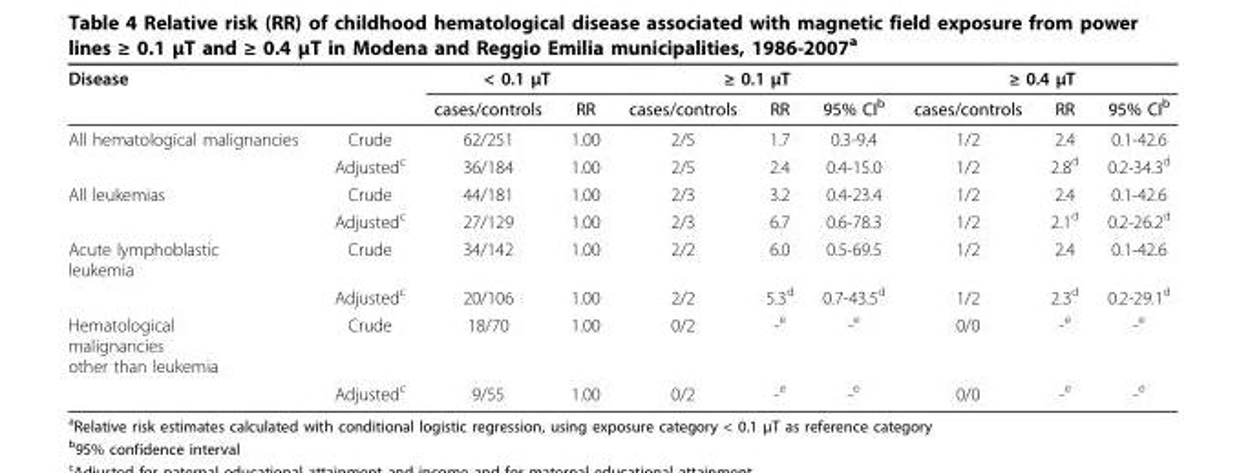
<table><thead><tr><td rowspan="2">Disease</td><td rowspan="2"></td><td colspan="2">&lt; 0.1 μT</td><td colspan="3">≥ 0.1 μT</td><td colspan="3">≥ 0.4 μT</td></tr><tr><td>cases/controls</td><td>RR</td><td>cases/controls</td><td>RR</td><td>95% CI<sup>b</sup></td><td>cases/controls</td><td>RR</td><td>95% CI<sup>b</sup></td></tr></thead><tbody><tr><td rowspan="2">All hematological malignancies</td><td>Crude</td><td>62/251</td><td>1.00</td><td>2/5</td><td>1.7</td><td>0.3-9.4</td><td>1/2</td><td>2.4</td><td>0.1-42.6</td></tr><tr><td>Adjusted<sup>c</sup></td><td>36/184</td><td>1.00</td><td>2/5</td><td>2.4</td><td>0.4-15.0</td><td>1/2</td><td>2.8<sup>d</sup></td><td>0.2-34.3<sup>d</sup></td></tr><tr><td rowspan="2">All leukemias</td><td>Crude</td><td>44/181</td><td>1.00</td><td>2/3</td><td>3.2</td><td>0.4-23.4</td><td>1/2</td><td>2.4</td><td>0.1-42.6</td></tr><tr><td>Adjusted<sup>c</sup></td><td>27/129</td><td>1.00</td><td>2/3</td><td>6.7</td><td>0.6-78.3</td><td>1/2</td><td>2.1<sup>d</sup></td><td>0.2-26.2<sup>d</sup></td></tr><tr><td rowspan="2">Acute lymphoblastic leukemia</td><td>Crude</td><td>34/142</td><td>1.00</td><td>2/2</td><td>6.0</td><td>0.5-69.5</td><td>1/2</td><td>2.4</td><td>0.1-42.6</td></tr><tr><td>Adjusted<sup>c</sup></td><td>20/106</td><td>1.00</td><td>2/2</td><td>5.3<sup>d</sup></td><td>0.7-43.5<sup>d</sup></td><td>1/2</td><td>2.3<sup>d</sup></td><td>0.2-29.1<sup>d</sup></td></tr><tr><td rowspan="2">Hematological malignancies other than leukemia</td><td>Crude</td><td>18/70</td><td>1.00</td><td>0/2</td><td>-<sup>e</sup></td><td>-<sup>e</sup></td><td>0/0</td><td>-<sup>e</sup></td><td>-<sup>e</sup></td></tr><tr><td>Adjusted<sup>c</sup></td><td>9/55</td><td>1.00</td><td>0/2</td><td>-<sup>e</sup></td><td>-<sup>e</sup></td><td>0/0</td><td>-<sup>e</sup></td><td>-<sup>e</sup></td></tr></tbody></table>